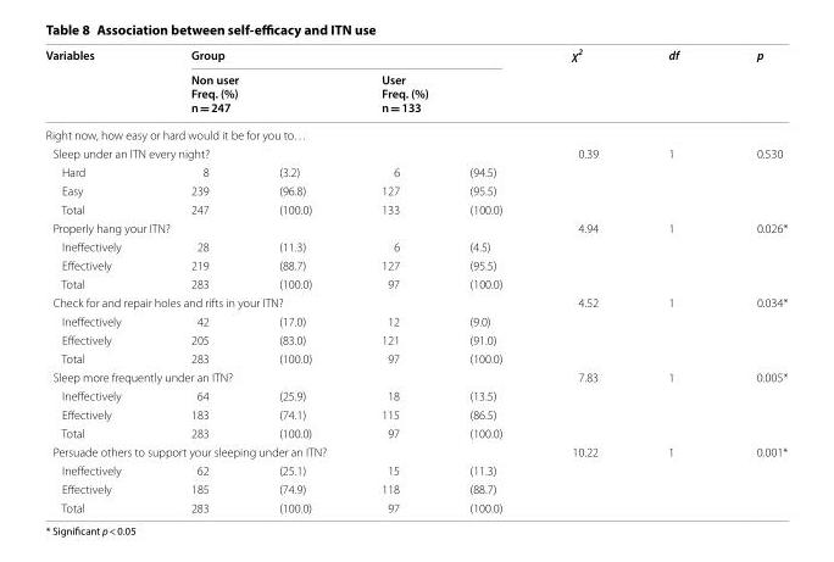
<table><thead><tr><td rowspan="2">Variables</td><td colspan="4">Group</td><td rowspan="2">χ<sup>2</sup></td><td rowspan="2">df</td><td rowspan="2">p</td></tr><tr><td colspan="2">Non user Freq. (%) n = 247</td><td colspan="2">User Freq. (%) n = 133</td></tr><tr><td colspan="8">Right now, how easy or hard would it be for you to…</td></tr><tr><td colspan="5">Sleep under an ITN every night?</td><td rowspan="2">0.39</td><td rowspan="2">1</td><td rowspan="2">0.530</td></tr><tr><td>Hard</td><td>8</td><td>(3.2)</td><td>6</td><td>(94.5)</td></tr></thead><tbody><tr><td>Easy</td><td>239</td><td>(96.8)</td><td>127</td><td>(95.5)</td><td></td><td></td><td></td></tr><tr><td>Total</td><td>247</td><td>(100.0)</td><td>133</td><td>(100.0)</td><td></td><td></td><td></td></tr><tr><td colspan="5">Properly hang your ITN?</td><td>4.94</td><td>1</td><td>0.026*</td></tr><tr><td>Ineffectively</td><td>28</td><td>(11.3)</td><td>6</td><td>(4.5)</td><td></td><td></td><td></td></tr><tr><td>Effectively</td><td>219</td><td>(88.7)</td><td>127</td><td>(95.5)</td><td></td><td></td><td></td></tr><tr><td>Total</td><td>283</td><td>(100.0)</td><td>97</td><td>(100.0)</td><td></td><td></td><td></td></tr><tr><td colspan="5">Check for and repair holes and rifts in your ITN?</td><td>4.52</td><td>1</td><td>0.034*</td></tr><tr><td>Ineffectively</td><td>42</td><td>(17.0)</td><td>12</td><td>(9.0)</td><td></td><td></td><td></td></tr><tr><td>Effectively</td><td>205</td><td>(83.0)</td><td>121</td><td>(91.0)</td><td></td><td></td><td></td></tr><tr><td>Total</td><td>283</td><td>(100.0)</td><td>97</td><td>(100.0)</td><td></td><td></td><td></td></tr><tr><td colspan="5">Sleep more frequently under an ITN?</td><td>7.83</td><td>1</td><td>0.005*</td></tr><tr><td>Ineffectively</td><td>64</td><td>(25.9)</td><td>18</td><td>(13.5)</td><td></td><td></td><td></td></tr><tr><td>Effectively</td><td>183</td><td>(74.1)</td><td>115</td><td>(86.5)</td><td></td><td></td><td></td></tr><tr><td>Total</td><td>283</td><td>(100.0)</td><td>97</td><td>(100.0)</td><td></td><td></td><td></td></tr><tr><td colspan="5">Persuade others to support your sleeping under an ITN?</td><td>10.22</td><td>1</td><td>0.001*</td></tr><tr><td>Ineffectively</td><td>62</td><td>(25.1)</td><td>15</td><td>(11.3)</td><td></td><td></td><td></td></tr><tr><td>Effectively</td><td>185</td><td>(74.9)</td><td>118</td><td>(88.7)</td><td></td><td></td><td></td></tr><tr><td>Total</td><td>283</td><td>(100.0)</td><td>97</td><td>(100.0)</td><td></td><td></td><td></td></tr></tbody></table>